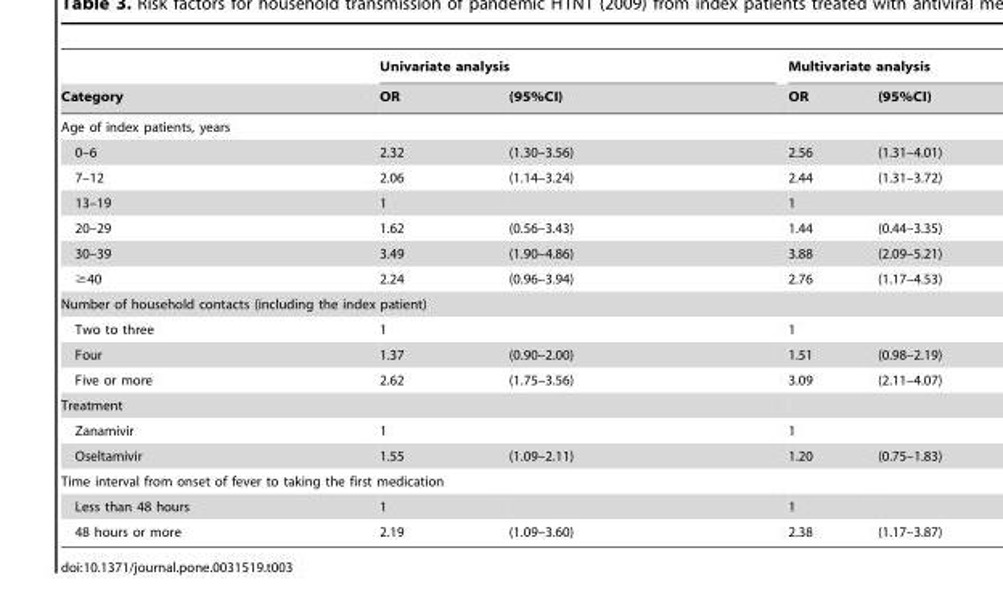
<table><thead><tr><td rowspan="2">Category</td><td colspan="2">Univariate analysis</td><td colspan="2">Multivariate analysis</td></tr><tr><td>OR</td><td>(95%CI)</td><td>OR</td><td>(95%CI)</td></tr></thead><tbody><tr><td colspan="5">Age of index patients, years</td></tr><tr><td>0–6</td><td>2.32</td><td>(1.30–3.56)</td><td>2.56</td><td>(1.31–4.01)</td></tr><tr><td>7–12</td><td>2.06</td><td>(1.14–3.24)</td><td>2.44</td><td>(1.31–3.72)</td></tr><tr><td>13–19</td><td>1</td><td></td><td>1</td><td></td></tr><tr><td>20–29</td><td>1.62</td><td>(0.56–3.43)</td><td>1.44</td><td>(0.44–3.35)</td></tr><tr><td>30–39</td><td>3.49</td><td>(1.90–4.86)</td><td>3.88</td><td>(2.09–5.21)</td></tr><tr><td>≥40</td><td>2.24</td><td>(0.96–3.94)</td><td>2.76</td><td>(1.17–4.53)</td></tr><tr><td colspan="5">Number of household contacts (including the index patient)</td></tr><tr><td>Two to three</td><td>1</td><td></td><td>1</td><td></td></tr><tr><td>Four</td><td>1.37</td><td>(0.90–2.00)</td><td>1.51</td><td>(0.98–2.19)</td></tr><tr><td>Five or more</td><td>2.62</td><td>(1.75–3.56)</td><td>3.09</td><td>(2.11–4.07)</td></tr><tr><td colspan="5">Treatment</td></tr><tr><td>Zanamivir</td><td>1</td><td></td><td>1</td><td></td></tr><tr><td>Oseltamivir</td><td>1.55</td><td>(1.09–2.11)</td><td>1.20</td><td>(0.75–1.83)</td></tr><tr><td colspan="5">Time interval from onset of fever to taking the first medication</td></tr><tr><td>Less than 48 hours</td><td>1</td><td></td><td>1</td><td></td></tr><tr><td>48 hours or more</td><td>2.19</td><td>(1.09–3.60)</td><td>2.38</td><td>(1.17–3.87)</td></tr></tbody></table>